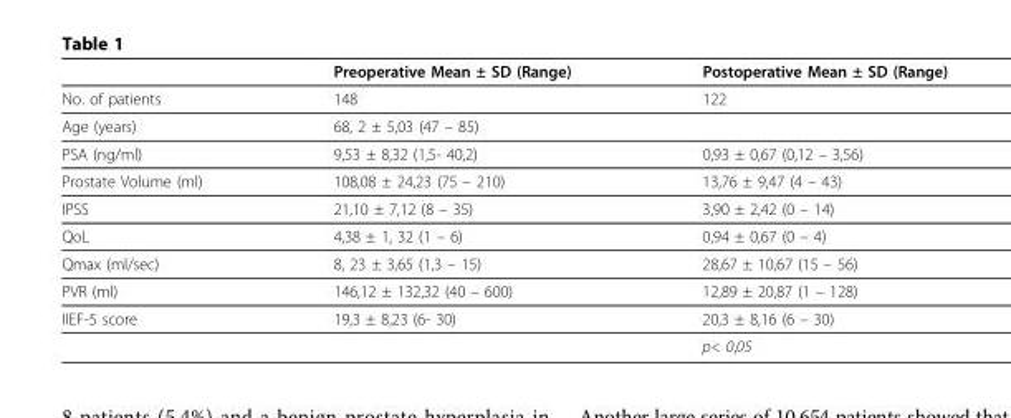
<table><thead><tr><td></td><td>Preoperative Mean ± SD (Range)</td><td>Postoperative Mean ± SD (Range)</td></tr></thead><tbody><tr><td>No. of patients</td><td>148</td><td>122</td></tr><tr><td>Age (years)</td><td>68, 2 ± 5,03 (47 – 85)</td><td></td></tr><tr><td>PSA (ng/ml)</td><td>9,53 ± 8,32 (1,5- 40,2)</td><td>0,93 ± 0,67 (0,12 – 3,56)</td></tr><tr><td>Prostate Volume (ml)</td><td>108,08 ± 24,23 (75 – 210)</td><td>13,76 ± 9,47 (4 – 43)</td></tr><tr><td>IPSS</td><td>21,10 ± 7,12 (8 – 35)</td><td>3,90 ± 2,42 (0 – 14)</td></tr><tr><td>QoL</td><td>4,38 ± 1, 32 (1 – 6)</td><td>0,94 ± 0,67 (0 – 4)</td></tr><tr><td>Qmax (ml/sec)</td><td>8, 23 ± 3,65 (1,3 – 15)</td><td>28,67 ± 10,67 (15 – 56)</td></tr><tr><td>PVR (ml)</td><td>146,12 ± 132,32 (40 – 600)</td><td>12,89 ± 20,87 (1 – 128)</td></tr><tr><td rowspan="2">IIEF-5 score</td><td>19,3 ± 8,23 (6- 30)</td><td>20,3 ± 8,16 (6 – 30)</td></tr><tr><td></td><td>p&lt; 0,05</td></tr></tbody></table>